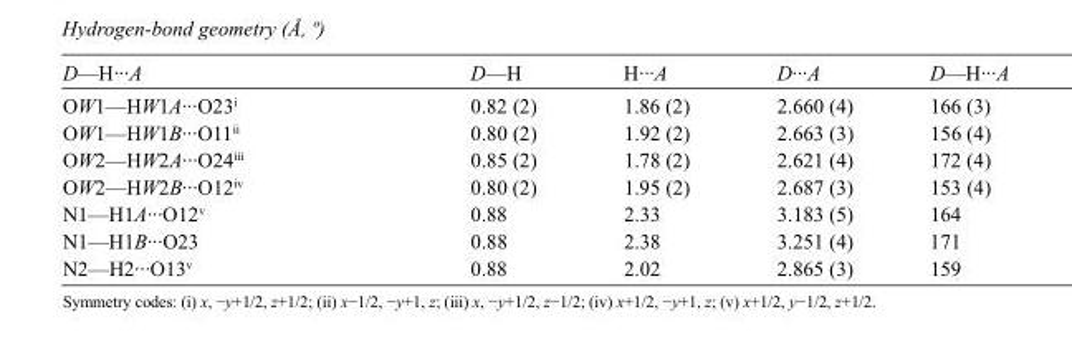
<table><tbody><tr><td>D—H···A</td><td>D—H</td><td>H···A</td><td>D···A</td><td>D—H···A</td></tr><tr><td>OW1—HW1A···O23<sup>i</sup></td><td>0.82 (2)</td><td>1.86 (2)</td><td>2.660 (4)</td><td>166 (3)</td></tr><tr><td>OW1—HW1B···O11<sup>ii</sup></td><td>0.80 (2)</td><td>1.92 (2)</td><td>2.663 (3)</td><td>156 (4)</td></tr><tr><td>OW2—HW2A···O24<sup>iii</sup></td><td>0.85 (2)</td><td>1.78 (2)</td><td>2.621 (4)</td><td>172 (4)</td></tr><tr><td>OW2—HW2B···O12<sup>iv</sup></td><td>0.80 (2)</td><td>1.95 (2)</td><td>2.687 (3)</td><td>153 (4)</td></tr><tr><td>N1—H1A···O12<sup>v</sup></td><td>0.88</td><td>2.33</td><td>3.183 (5)</td><td>164</td></tr><tr><td>N1—H1B···O23</td><td>0.88</td><td>2.38</td><td>3.251 (4)</td><td>171</td></tr><tr><td>N2—H2···O13<sup>v</sup></td><td>0.88</td><td>2.02</td><td>2.865 (3)</td><td>159</td></tr></tbody></table>